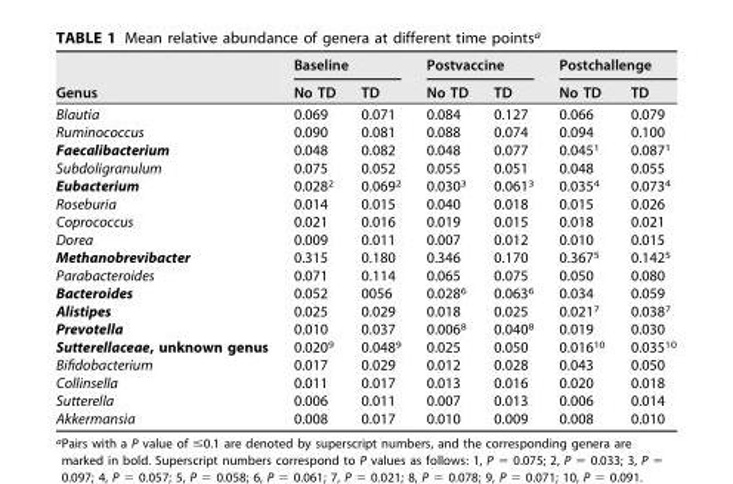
<table><thead><tr><td rowspan="2">Genus</td><td colspan="2">Baseline</td><td colspan="2">Postvaccine</td><td colspan="2">Postchallenge</td></tr><tr><td>No TD</td><td>TD</td><td>No TD</td><td>TD</td><td>No TD</td><td>TD</td></tr></thead><tbody><tr><td>Blautia</td><td>0.069</td><td>0.071</td><td>0.084</td><td>0.127</td><td>0.066</td><td>0.079</td></tr><tr><td>Ruminococcus</td><td>0.090</td><td>0.081</td><td>0.088</td><td>0.074</td><td>0.094</td><td>0.100</td></tr><tr><td>Faecalibacterium</td><td>0.048</td><td>0.082</td><td>0.048</td><td>0.077</td><td>0.045<sup>1</sup></td><td>0.087<sup>1</sup></td></tr><tr><td>Subdoligranulum</td><td>0.075</td><td>0.052</td><td>0.055</td><td>0.051</td><td>0.048</td><td>0.055</td></tr><tr><td>Eubacterium</td><td>0.028<sup>2</sup></td><td>0.069<sup>2</sup></td><td>0.030<sup>3</sup></td><td>0.061<sup>3</sup></td><td>0.035<sup>4</sup></td><td>0.073<sup>4</sup></td></tr><tr><td>Roseburia</td><td>0.014</td><td>0.015</td><td>0.040</td><td>0.018</td><td>0.015</td><td>0.026</td></tr><tr><td>Coprococcus</td><td>0.021</td><td>0.016</td><td>0.019</td><td>0.015</td><td>0.018</td><td>0.021</td></tr><tr><td>Dorea</td><td>0.009</td><td>0.011</td><td>0.007</td><td>0.012</td><td>0.010</td><td>0.015</td></tr><tr><td>Methanobrevibacter</td><td>0.315</td><td>0.180</td><td>0.346</td><td>0.170</td><td>0.367<sup>5</sup></td><td>0.142<sup>5</sup></td></tr><tr><td>Parabacteroides</td><td>0.071</td><td>0.114</td><td>0.065</td><td>0.075</td><td>0.050</td><td>0.080</td></tr><tr><td>Bacteroides</td><td>0.052</td><td>0056</td><td>0.028<sup>6</sup></td><td>0.063<sup>6</sup></td><td>0.034</td><td>0.059</td></tr><tr><td>Alistipes</td><td>0.025</td><td>0.029</td><td>0.018</td><td>0.025</td><td>0.021<sup>7</sup></td><td>0.038<sup>7</sup></td></tr><tr><td>Prevotella</td><td>0.010</td><td>0.037</td><td>0.006<sup>8</sup></td><td>0.040<sup>8</sup></td><td>0.019</td><td>0.030</td></tr><tr><td>Sutterellaceae, unknown genus</td><td>0.020<sup>9</sup></td><td>0.048<sup>9</sup></td><td>0.025</td><td>0.050</td><td>0.016<sup>10</sup></td><td>0.035<sup>10</sup></td></tr><tr><td>Bifidobacterium</td><td>0.017</td><td>0.029</td><td>0.012</td><td>0.028</td><td>0.043</td><td>0.050</td></tr><tr><td>Collinsella</td><td>0.011</td><td>0.017</td><td>0.013</td><td>0.016</td><td>0.020</td><td>0.018</td></tr><tr><td>Sutterella</td><td>0.006</td><td>0.011</td><td>0.007</td><td>0.013</td><td>0.006</td><td>0.014</td></tr><tr><td>Akkermansia</td><td>0.008</td><td>0.017</td><td>0.010</td><td>0.009</td><td>0.008</td><td>0.010</td></tr></tbody></table>